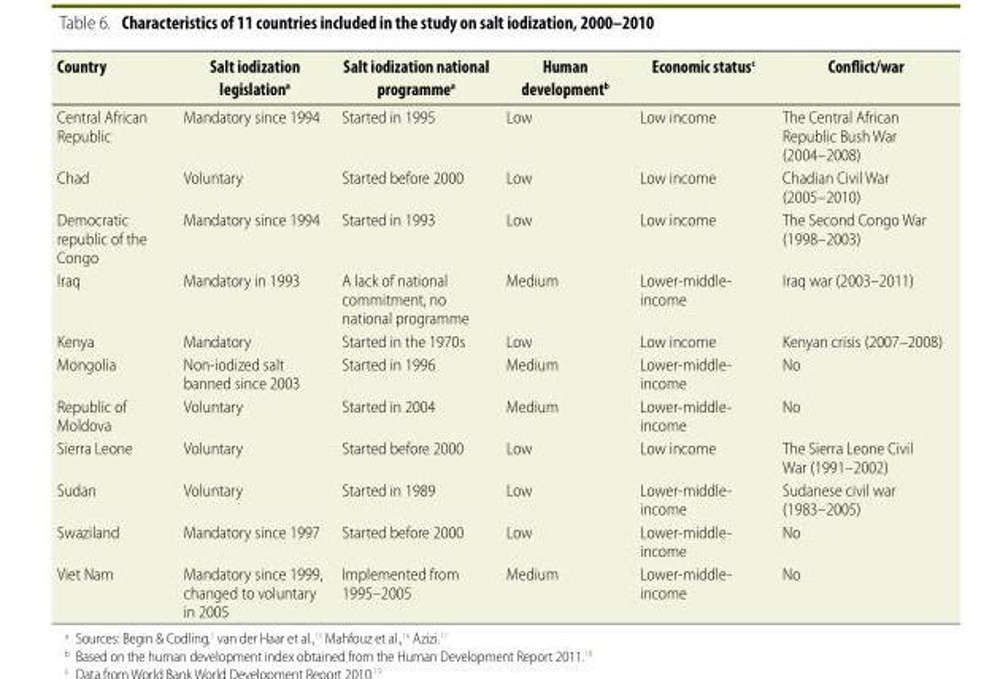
<table><thead><tr><td>Country</td><td>Salt iodization legislation<sup>a</sup></td><td>Salt iodization national programme<sup>a</sup></td><td>Human development<sup>b</sup></td><td>Economic status<sup>c</sup></td><td>Conflict/war</td></tr></thead><tbody><tr><td>Central African Republic</td><td>Mandatory since 1994</td><td>Started in 1995</td><td>Low</td><td>Low income</td><td>The Central African Republic Bush War (2004–2008)</td></tr><tr><td>Chad</td><td>Voluntary</td><td>Started before 2000</td><td>Low</td><td>Low income</td><td>Chadian Civil War (2005–2010)</td></tr><tr><td>Democratic republic of the Congo</td><td>Mandatory since 1994</td><td>Started in 1993</td><td>Low</td><td>Low income</td><td>The Second Congo War (1998–2003)</td></tr><tr><td>Iraq</td><td>Mandatory in 1993</td><td>A lack of national commitment, no national programme</td><td>Medium</td><td>Lower-middle- income</td><td>Iraq war (2003–2011)</td></tr><tr><td>Kenya</td><td>Mandatory</td><td>Started in the 1970s</td><td>Low</td><td>Low income</td><td>Kenyan crisis (2007–2008)</td></tr><tr><td>Mongolia</td><td>Non-iodized salt banned since 2003</td><td>Started in 1996</td><td>Medium</td><td>Lower-middle- income</td><td>No</td></tr><tr><td>Republic of Moldova</td><td>Voluntary</td><td>Started in 2004</td><td>Medium</td><td>Lower-middle- income</td><td>No</td></tr><tr><td>Sierra Leone</td><td>Voluntary</td><td>Started before 2000</td><td>Low</td><td>Low income</td><td>The Sierra Leone Civil War (1991–2002)</td></tr><tr><td>Sudan</td><td>Voluntary</td><td>Started in 1989</td><td>Low</td><td>Lower-middle- income</td><td>Sudanese civil war (1983–2005)</td></tr><tr><td>Swaziland</td><td>Mandatory since 1997</td><td>Started before 2000</td><td>Low</td><td>Lower-middle- income</td><td>No</td></tr><tr><td>Viet Nam</td><td>Mandatory since 1999, changed to voluntary in 2005</td><td>Implemented from 1995–2005</td><td>Medium</td><td>Lower-middle- income</td><td>No</td></tr></tbody></table>